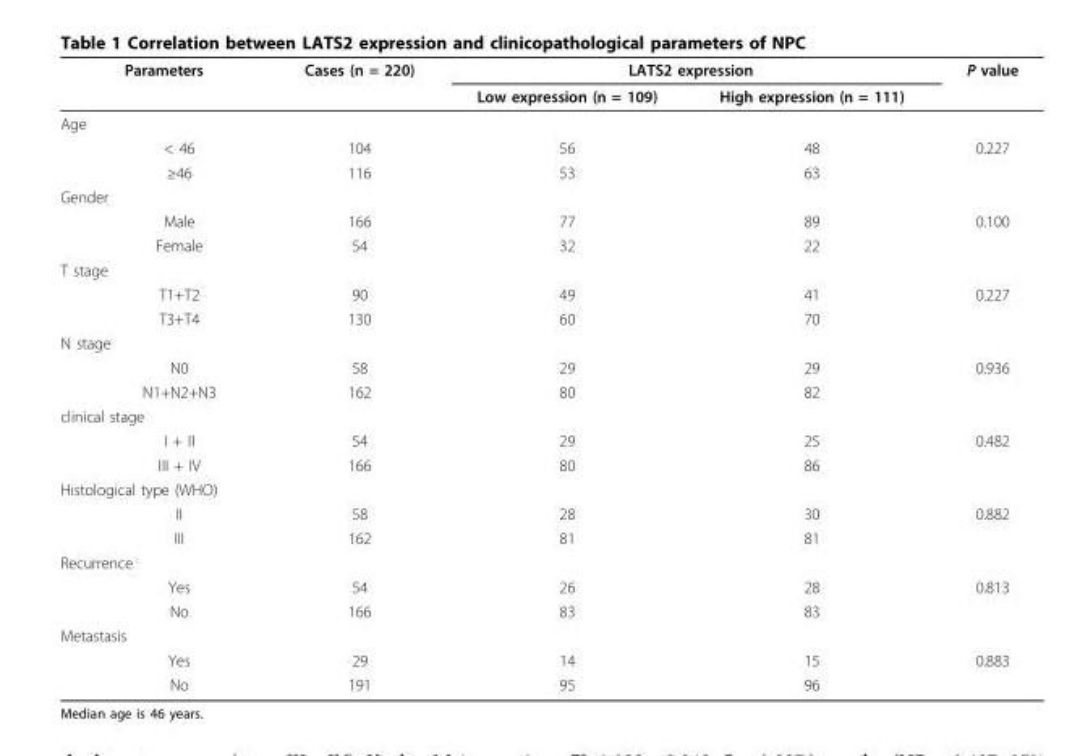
<table><thead><tr><td rowspan="2">Parameters</td><td rowspan="2">Cases (n = 220)</td><td colspan="2">LATS2 expression</td><td rowspan="2">P value</td></tr><tr><td>Low expression (n = 109)</td><td>High expression (n = 111)</td></tr></thead><tbody><tr><td colspan="5">Age</td></tr><tr><td>&lt; 46</td><td>104</td><td>56</td><td>48</td><td>0.227</td></tr><tr><td>≥46</td><td>116</td><td>53</td><td>63</td><td></td></tr><tr><td colspan="5">Gender</td></tr><tr><td>Male</td><td>166</td><td>77</td><td>89</td><td>0.100</td></tr><tr><td>Female</td><td>54</td><td>32</td><td>22</td><td></td></tr><tr><td colspan="5">T stage</td></tr><tr><td>T1+T2</td><td>90</td><td>49</td><td>41</td><td>0.227</td></tr><tr><td>T3+T4</td><td>130</td><td>60</td><td>70</td><td></td></tr><tr><td colspan="5">N stage</td></tr><tr><td>N0</td><td>58</td><td>29</td><td>29</td><td>0.936</td></tr><tr><td>N1+N2+N3</td><td>162</td><td>80</td><td>82</td><td></td></tr><tr><td colspan="5">clinical stage</td></tr><tr><td>I + II</td><td>54</td><td>29</td><td>25</td><td>0.482</td></tr><tr><td>III + IV</td><td>166</td><td>80</td><td>86</td><td></td></tr><tr><td colspan="5">Histological type (WHO)</td></tr><tr><td>II</td><td>58</td><td>28</td><td>30</td><td>0.882</td></tr><tr><td>III</td><td>162</td><td>81</td><td>81</td><td></td></tr><tr><td colspan="5">Recurrence</td></tr><tr><td>Yes</td><td>54</td><td>26</td><td>28</td><td>0.813</td></tr><tr><td>No</td><td>166</td><td>83</td><td>83</td><td></td></tr><tr><td colspan="5">Metastasis</td></tr><tr><td>Yes</td><td>29</td><td>14</td><td>15</td><td>0.883</td></tr><tr><td>No</td><td>191</td><td>95</td><td>96</td><td></td></tr></tbody></table>